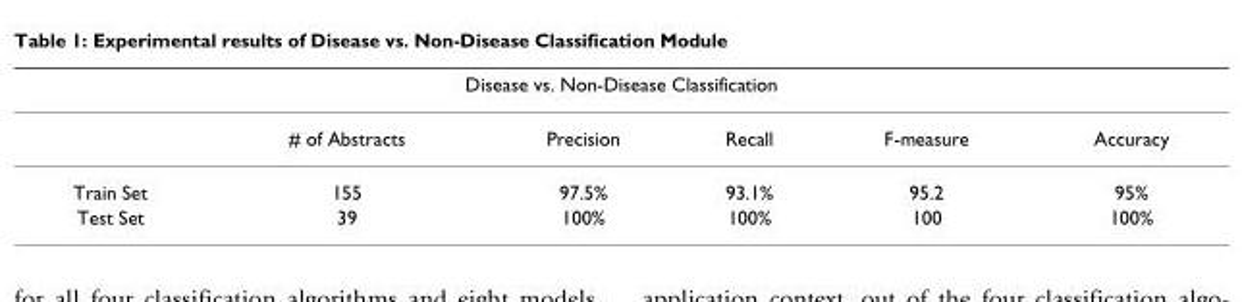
<table><thead><tr><td colspan="6">Disease vs. Non-Disease Classification</td></tr><tr><td></td><td># of Abstracts</td><td>Precision</td><td>Recall</td><td>F-measure</td><td>Accuracy</td></tr></thead><tbody><tr><td>Train Set</td><td>155</td><td>97.5%</td><td>93.1%</td><td>95.2</td><td>95%</td></tr><tr><td>Test Set</td><td>39</td><td>100%</td><td>100%</td><td>100</td><td>100%</td></tr></tbody></table>